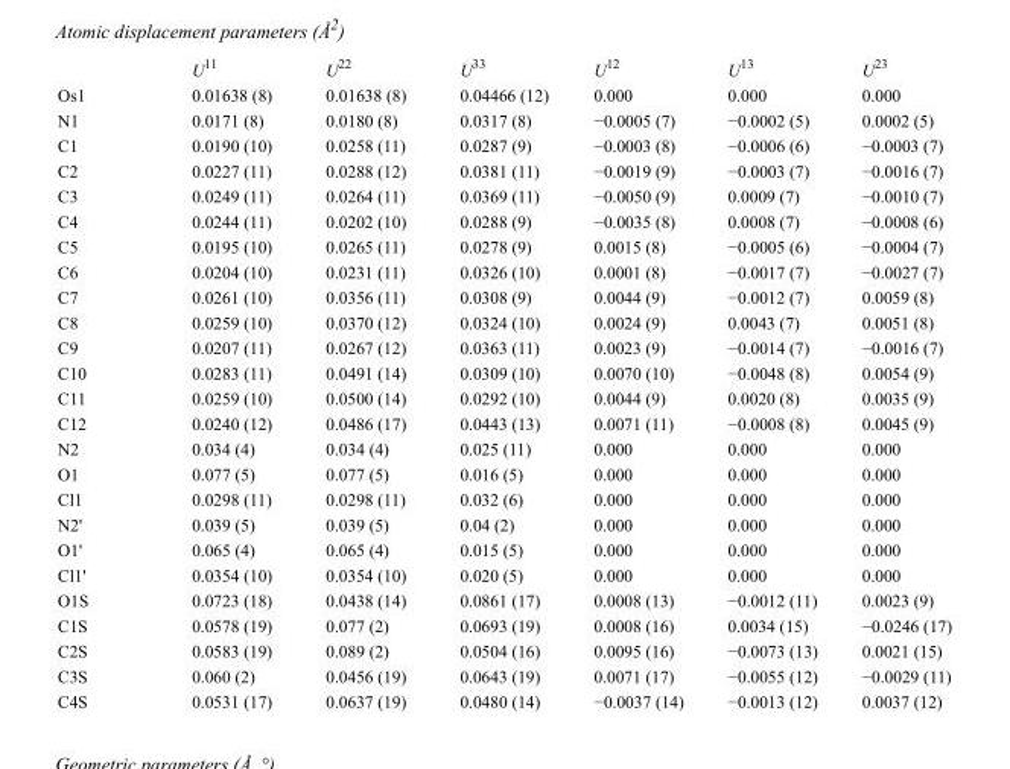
<table><thead><tr><td></td><td>U<sup>11</sup></td><td>U<sup>22</sup></td><td>U<sup>33</sup></td><td>U<sup>12</sup></td><td>U<sup>13</sup></td><td>U<sup>23</sup></td></tr></thead><tbody><tr><td>Os1</td><td>0.01638 (8)</td><td>0.01638 (8)</td><td>0.04466 (12)</td><td>0.000</td><td>0.000</td><td>0.000</td></tr><tr><td>N1</td><td>0.0171 (8)</td><td>0.0180 (8)</td><td>0.0317 (8)</td><td>−0.0005 (7)</td><td>−0.0002 (5)</td><td>0.0002 (5)</td></tr><tr><td>C1</td><td>0.0190 (10)</td><td>0.0258 (11)</td><td>0.0287 (9)</td><td>−0.0003 (8)</td><td>−0.0006 (6)</td><td>−0.0003 (7)</td></tr><tr><td>C2</td><td>0.0227 (11)</td><td>0.0288 (12)</td><td>0.0381 (11)</td><td>−0.0019 (9)</td><td>−0.0003 (7)</td><td>−0.0016 (7)</td></tr><tr><td>C3</td><td>0.0249 (11)</td><td>0.0264 (11)</td><td>0.0369 (11)</td><td>−0.0050 (9)</td><td>0.0009 (7)</td><td>−0.0010 (7)</td></tr><tr><td>C4</td><td>0.0244 (11)</td><td>0.0202 (10)</td><td>0.0288 (9)</td><td>−0.0035 (8)</td><td>0.0008 (7)</td><td>−0.0008 (6)</td></tr><tr><td>C5</td><td>0.0195 (10)</td><td>0.0265 (11)</td><td>0.0278 (9)</td><td>0.0015 (8)</td><td>−0.0005 (6)</td><td>−0.0004 (7)</td></tr><tr><td>C6</td><td>0.0204 (10)</td><td>0.0231 (11)</td><td>0.0326 (10)</td><td>0.0001 (8)</td><td>−0.0017 (7)</td><td>−0.0027 (7)</td></tr><tr><td>C7</td><td>0.0261 (10)</td><td>0.0356 (11)</td><td>0.0308 (9)</td><td>0.0044 (9)</td><td>−0.0012 (7)</td><td>0.0059 (8)</td></tr><tr><td>C8</td><td>0.0259 (10)</td><td>0.0370 (12)</td><td>0.0324 (10)</td><td>0.0024 (9)</td><td>0.0043 (7)</td><td>0.0051 (8)</td></tr><tr><td>C9</td><td>0.0207 (11)</td><td>0.0267 (12)</td><td>0.0363 (11)</td><td>0.0023 (9)</td><td>−0.0014 (7)</td><td>−0.0016 (7)</td></tr><tr><td>C10</td><td>0.0283 (11)</td><td>0.0491 (14)</td><td>0.0309 (10)</td><td>0.0070 (10)</td><td>−0.0048 (8)</td><td>0.0054 (9)</td></tr><tr><td>C11</td><td>0.0259 (10)</td><td>0.0500 (14)</td><td>0.0292 (10)</td><td>0.0044 (9)</td><td>0.0020 (8)</td><td>0.0035 (9)</td></tr><tr><td>C12</td><td>0.0240 (12)</td><td>0.0486 (17)</td><td>0.0443 (13)</td><td>0.0071 (11)</td><td>−0.0008 (8)</td><td>0.0045 (9)</td></tr><tr><td>N2</td><td>0.034 (4)</td><td>0.034 (4)</td><td>0.025 (11)</td><td>0.000</td><td>0.000</td><td>0.000</td></tr><tr><td>O1</td><td>0.077 (5)</td><td>0.077 (5)</td><td>0.016 (5)</td><td>0.000</td><td>0.000</td><td>0.000</td></tr><tr><td>Cl1</td><td>0.0298 (11)</td><td>0.0298 (11)</td><td>0.032 (6)</td><td>0.000</td><td>0.000</td><td>0.000</td></tr><tr><td>N2&#x27;</td><td>0.039 (5)</td><td>0.039 (5)</td><td>0.04 (2)</td><td>0.000</td><td>0.000</td><td>0.000</td></tr><tr><td>O1&#x27;</td><td>0.065 (4)</td><td>0.065 (4)</td><td>0.015 (5)</td><td>0.000</td><td>0.000</td><td>0.000</td></tr><tr><td>Cl1&#x27;</td><td>0.0354 (10)</td><td>0.0354 (10)</td><td>0.020 (5)</td><td>0.000</td><td>0.000</td><td>0.000</td></tr><tr><td>O1S</td><td>0.0723 (18)</td><td>0.0438 (14)</td><td>0.0861 (17)</td><td>0.0008 (13)</td><td>−0.0012 (11)</td><td>0.0023 (9)</td></tr><tr><td>C1S</td><td>0.0578 (19)</td><td>0.077 (2)</td><td>0.0693 (19)</td><td>0.0008 (16)</td><td>0.0034 (15)</td><td>−0.0246 (17)</td></tr><tr><td>C2S</td><td>0.0583 (19)</td><td>0.089 (2)</td><td>0.0504 (16)</td><td>0.0095 (16)</td><td>−0.0073 (13)</td><td>0.0021 (15)</td></tr><tr><td>C3S</td><td>0.060 (2)</td><td>0.0456 (19)</td><td>0.0643 (19)</td><td>0.0071 (17)</td><td>−0.0055 (12)</td><td>−0.0029 (11)</td></tr><tr><td>C4S</td><td>0.0531 (17)</td><td>0.0637 (19)</td><td>0.0480 (14)</td><td>−0.0037 (14)</td><td>−0.0013 (12)</td><td>0.0037 (12)</td></tr></tbody></table>